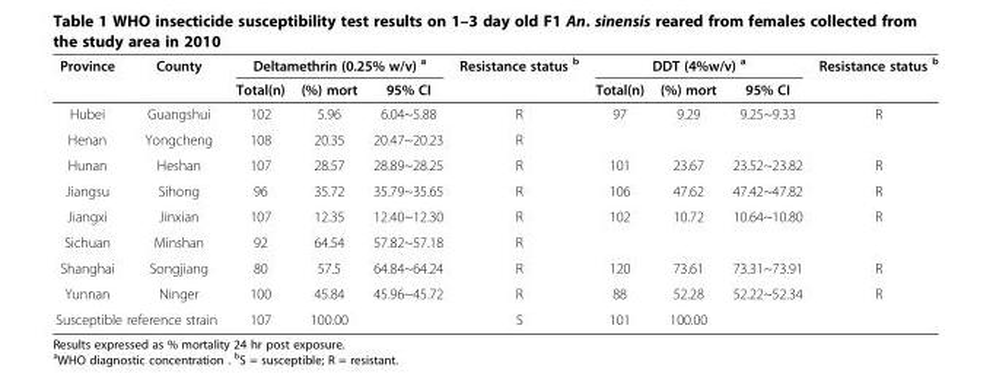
<table><thead><tr><td rowspan="2">Province</td><td rowspan="2">County</td><td colspan="3">Deltamethrin (0.25% w/v) <sup>a</sup></td><td rowspan="2">Resistance status <sup>b</sup></td><td colspan="3">DDT (4%w/v) <sup>a</sup></td><td rowspan="2">Resistance status <sup>b</sup></td></tr><tr><td>Total(n)</td><td>(%) mort</td><td>95% CI</td><td>Total(n)</td><td>(%) mort</td><td>95% CI</td></tr></thead><tbody><tr><td>Hubei</td><td>Guangshui</td><td>102</td><td>5.96</td><td>6.04~5.88</td><td>R</td><td>97</td><td>9.29</td><td>9.25~9.33</td><td>R</td></tr><tr><td>Henan</td><td>Yongcheng</td><td>108</td><td>20.35</td><td>20.47~20.23</td><td>R</td><td></td><td></td><td></td><td></td></tr><tr><td>Hunan</td><td>Heshan</td><td>107</td><td>28.57</td><td>28.89~28.25</td><td>R</td><td>101</td><td>23.67</td><td>23.52~23.82</td><td>R</td></tr><tr><td>Jiangsu</td><td>Sihong</td><td>96</td><td>35.72</td><td>35.79~35.65</td><td>R</td><td>106</td><td>47.62</td><td>47.42~47.82</td><td>R</td></tr><tr><td>Jiangxi</td><td>Jinxian</td><td>107</td><td>12.35</td><td>12.40~12.30</td><td>R</td><td>102</td><td>10.72</td><td>10.64~10.80</td><td>R</td></tr><tr><td>Sichuan</td><td>Minshan</td><td>92</td><td>64.54</td><td>57.82~57.18</td><td>R</td><td></td><td></td><td></td><td></td></tr><tr><td>Shanghai</td><td>Songjiang</td><td>80</td><td>57.5</td><td>64.84~64.24</td><td>R</td><td>120</td><td>73.61</td><td>73.31~73.91</td><td>R</td></tr><tr><td>Yunnan</td><td>Ninger</td><td>100</td><td>45.84</td><td>45.96~45.72</td><td>R</td><td>88</td><td>52.28</td><td>52.22~52.34</td><td>R</td></tr><tr><td colspan="2">Susceptible reference strain</td><td>107</td><td>100.00</td><td></td><td>S</td><td>101</td><td>100.00</td><td></td><td></td></tr></tbody></table>